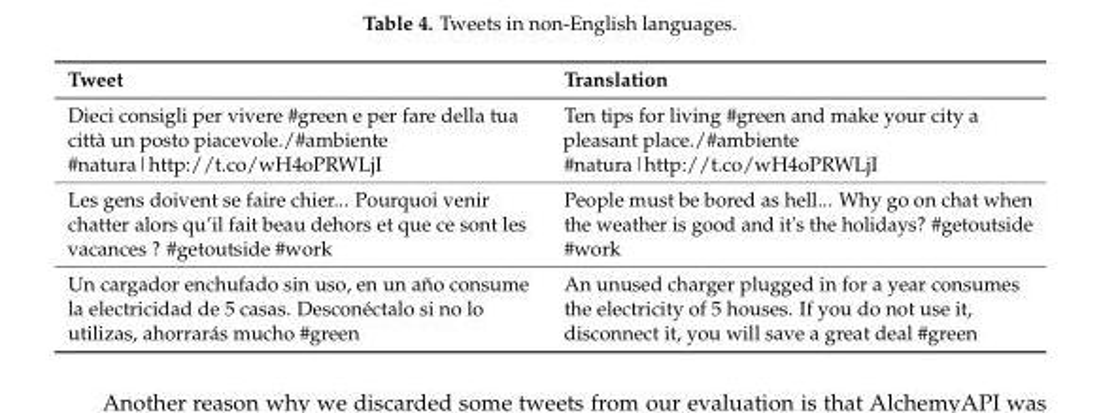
<table><thead><tr><td>Tweet</td><td>Translation</td></tr></thead><tbody><tr><td>Dieci consigli per vivere #green e per fare della tua città un posto piacevole./#ambiente #natura|http://t.co/wH4oPRWLjI</td><td>Ten tips for living #green and make your city a pleasant place./#ambiente #natura|http://t.co/wH4oPRWLjI</td></tr><tr><td>Les gens doivent se faire chier... Pourquoi venir chatter alors qu’il fait beau dehors et que ce sont les vacances ? #getoutside #work</td><td>People must be bored as hell... Why go on chat when the weather is good and it&#x27;s the holidays? #getoutside #work</td></tr><tr><td>Un cargador enchufado sin uso, en un año consume la electricidad de 5 casas. Desconéctalo si no lo utilizas, ahorrarás mucho #green</td><td>An unused charger plugged in for a year consumes the electricity of 5 houses. If you do not use it, disconnect it, you will save a great deal #green</td></tr></tbody></table>